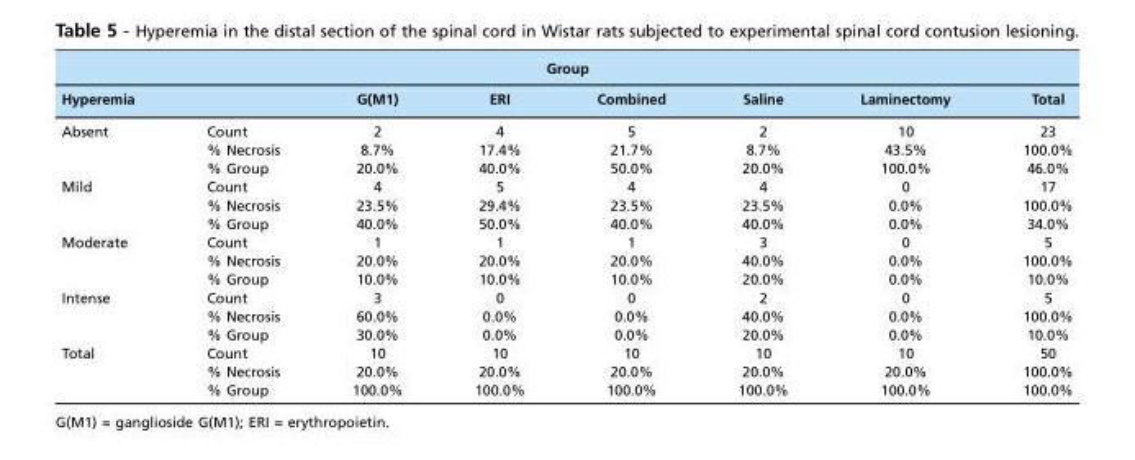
<table><thead><tr><td colspan="8">Group</td></tr><tr><td>Hyperemia</td><td></td><td>G(M1)</td><td>ERI</td><td>Combined</td><td>Saline</td><td>Laminectomy</td><td>Total</td></tr></thead><tbody><tr><td rowspan="3">Absent</td><td>Count</td><td>2</td><td>4</td><td>5</td><td>2</td><td>10</td><td>23</td></tr><tr><td>% Necrosis</td><td>8.7%</td><td>17.4%</td><td>21.7%</td><td>8.7%</td><td>43.5%</td><td>100.0%</td></tr><tr><td>% Group</td><td>20.0%</td><td>40.0%</td><td>50.0%</td><td>20.0%</td><td>100.0%</td><td>46.0%</td></tr><tr><td rowspan="3">Mild</td><td>Count</td><td>4</td><td>5</td><td>4</td><td>4</td><td>0</td><td>17</td></tr><tr><td>% Necrosis</td><td>23.5%</td><td>29.4%</td><td>23.5%</td><td>23.5%</td><td>0.0%</td><td>100.0%</td></tr><tr><td>% Group</td><td>40.0%</td><td>50.0%</td><td>40.0%</td><td>40.0%</td><td>0.0%</td><td>34.0%</td></tr><tr><td rowspan="3">Moderate</td><td>Count</td><td>1</td><td>1</td><td>1</td><td>3</td><td>0</td><td>5</td></tr><tr><td>% Necrosis</td><td>20.0%</td><td>20.0%</td><td>20.0%</td><td>40.0%</td><td>0.0%</td><td>100.0%</td></tr><tr><td>% Group</td><td>10.0%</td><td>10.0%</td><td>10.0%</td><td>20.0%</td><td>0.0%</td><td>10.0%</td></tr><tr><td rowspan="3">Intense</td><td>Count</td><td>3</td><td>0</td><td>0</td><td>2</td><td>0</td><td>5</td></tr><tr><td>% Necrosis</td><td>60.0%</td><td>0.0%</td><td>0.0%</td><td>40.0%</td><td>0.0%</td><td>100.0%</td></tr><tr><td>% Group</td><td>30.0%</td><td>0.0%</td><td>0.0%</td><td>20.0%</td><td>0.0%</td><td>10.0%</td></tr><tr><td rowspan="3">Total</td><td>Count</td><td>10</td><td>10</td><td>10</td><td>10</td><td>10</td><td>50</td></tr><tr><td>% Necrosis</td><td>20.0%</td><td>20.0%</td><td>20.0%</td><td>20.0%</td><td>20.0%</td><td>100.0%</td></tr><tr><td>% Group</td><td>100.0%</td><td>100.0%</td><td>100.0%</td><td>100.0%</td><td>100.0%</td><td>100.0%</td></tr></tbody></table>